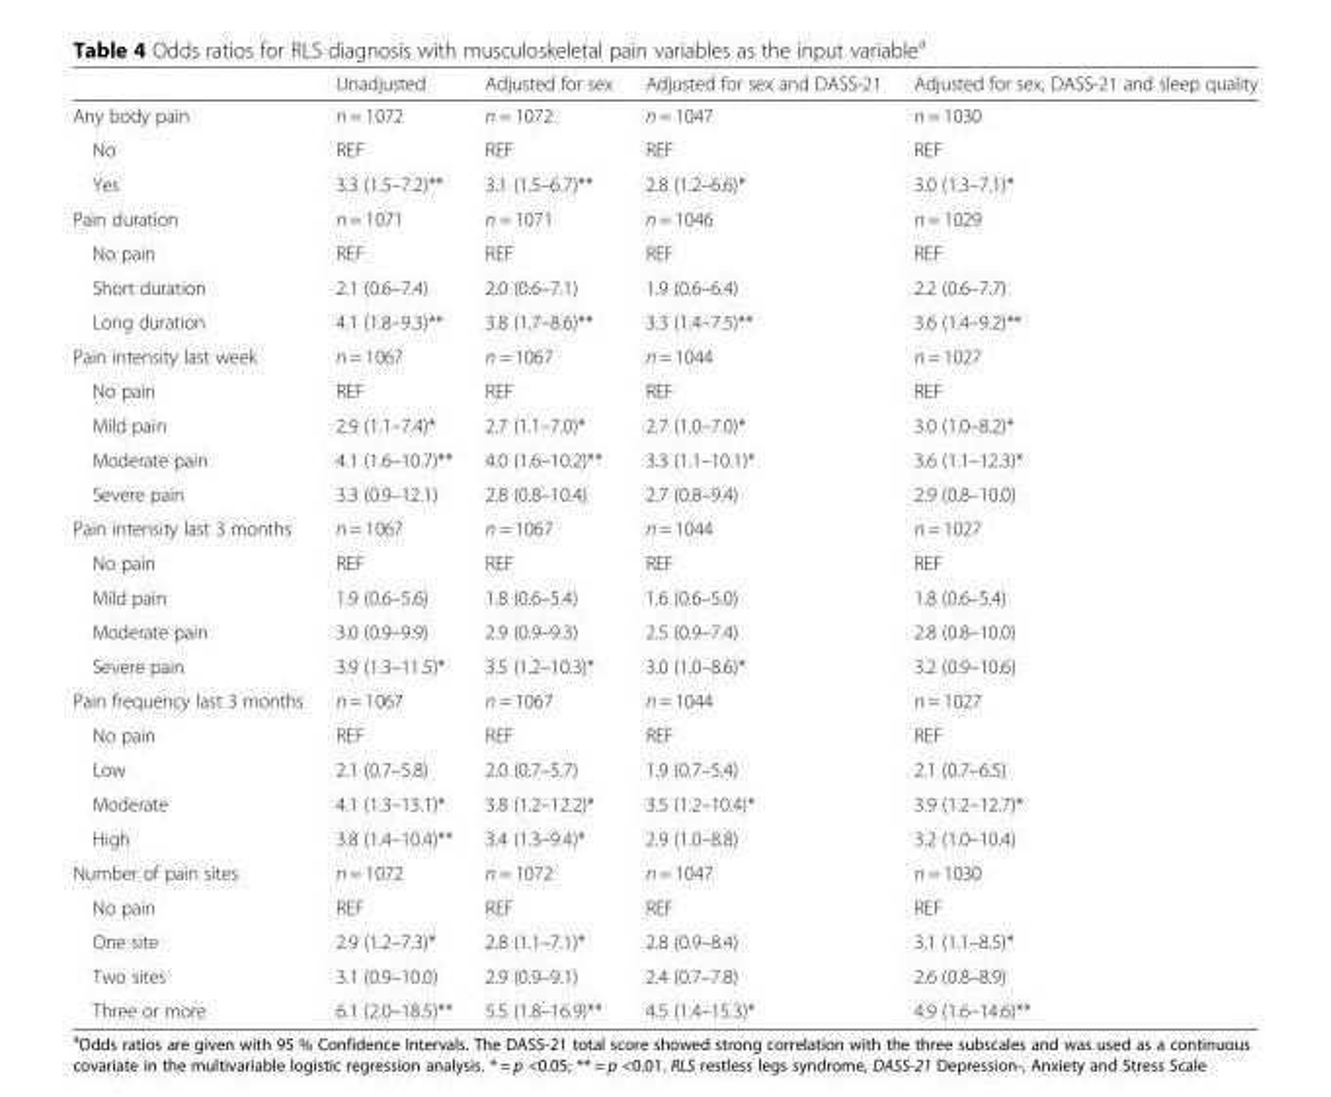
<table><thead><tr><td></td><td>Unadjusted</td><td>Adjusted for sex</td><td>Adjusted for sex and DASS-21</td><td>Adjusted for sex, DASS-21 and sleep quality</td></tr></thead><tbody><tr><td>Any body pain</td><td>n = 1072</td><td>n = 1072</td><td>n = 1047</td><td>n = 1030</td></tr><tr><td>No</td><td>REF</td><td>REF</td><td>REF</td><td>REF</td></tr><tr><td>Yes</td><td>3.3 (1.5–7.2)**</td><td>3.1 (1.5–6.7)**</td><td>2.8 (1.2–6.6)*</td><td>3.0 (1.3–7.1)*</td></tr><tr><td>Pain duration</td><td>n = 1071</td><td>n = 1071</td><td>n = 1046</td><td>n = 1029</td></tr><tr><td>No pain</td><td>REF</td><td>REF</td><td>REF</td><td>REF</td></tr><tr><td>Short duration</td><td>2.1 (0.6–7.4)</td><td>2.0 (0.6–7.1)</td><td>1.9 (0.6–6.4)</td><td>2.2 (0.6–7.7)</td></tr><tr><td>Long duration</td><td>4.1 (1.8–9.3)**</td><td>3.8 (1.7–8.6)**</td><td>3.3 (1.4–7.5)**</td><td>3.6 (1.4–9.2)**</td></tr><tr><td>Pain intensity last week</td><td>n = 1067</td><td>n = 1067</td><td>n = 1044</td><td>n = 1027</td></tr><tr><td>No pain</td><td>REF</td><td>REF</td><td>REF</td><td>REF</td></tr><tr><td>Mild pain</td><td>2.9 (1.1–7.4)*</td><td>2.7 (1.1–7.0)*</td><td>2.7 (1.0–7.0)*</td><td>3.0 (1.0–8.2)*</td></tr><tr><td>Moderate pain</td><td>4.1 (1.6–10.7)**</td><td>4.0 (1.6–10.2)**</td><td>3.3 (1.1–10.1)*</td><td>3.6 (1.1–12.3)*</td></tr><tr><td>Severe pain</td><td>3.3 (0.9–12.1)</td><td>2.8 (0.8–10.4)</td><td>2.7 (0.8–9.4)</td><td>2.9 (0.8–10.0)</td></tr><tr><td>Pain intensity last 3 months</td><td>n = 1067</td><td>n = 1067</td><td>n = 1044</td><td>n = 1027</td></tr><tr><td>No pain</td><td>REF</td><td>REF</td><td>REF</td><td>REF</td></tr><tr><td>Mild pain</td><td>1.9 (0.6–5.6)</td><td>1.8 (0.6–5.4)</td><td>1.6 (0.6–5.0)</td><td>1.8 (0.6–5.4)</td></tr><tr><td>Moderate pain</td><td>3.0 (0.9–9.9)</td><td>2.9 (0.9–9.3)</td><td>2.5 (0.9–7.4)</td><td>2.8 (0.8–10.0)</td></tr><tr><td>Severe pain</td><td>3.9 (1.3–11.5)*</td><td>3.5 (1.2–10.3)*</td><td>3.0 (1.0–8.6)*</td><td>3.2 (0.9–10.6)</td></tr><tr><td>Pain frequency last 3 months</td><td>n = 1067</td><td>n = 1067</td><td>n = 1044</td><td>n = 1027</td></tr><tr><td>No pain</td><td>REF</td><td>REF</td><td>REF</td><td>REF</td></tr><tr><td>Low</td><td>2.1 (0.7–5.8)</td><td>2.0 (0.7–5.7)</td><td>1.9 (0.7–5.4)</td><td>2.1 (0.7–6.5)</td></tr><tr><td>Moderate</td><td>4.1 (1.3–13.1)*</td><td>3.8 (1.2–12.2)*</td><td>3.5 (1.2–10.4)*</td><td>3.9 (1.2–12.7)*</td></tr><tr><td>High</td><td>3.8 (1.4–10.4)**</td><td>3.4 (1.3–9.4)*</td><td>2.9 (1.0–8.8)</td><td>3.2 (1.0–10.4)</td></tr><tr><td>Number of pain sites</td><td>n = 1072</td><td>n = 1072</td><td>n = 1047</td><td>n = 1030</td></tr><tr><td>No pain</td><td>REF</td><td>REF</td><td>REF</td><td>REF</td></tr><tr><td>One site</td><td>2.9 (1.2–7.3)*</td><td>2.8 (1.1–7.1)*</td><td>2.8 (0.9–8.4)</td><td>3.1 (1.1–8.5)*</td></tr><tr><td>Two sites</td><td>3.1 (0.9–10.0)</td><td>2.9 (0.9–9.1)</td><td>2.4 (0.7–7.8)</td><td>2.6 (0.8–8.9)</td></tr><tr><td>Three or more</td><td>6.1 (2.0–18.5)**</td><td>5.5 (1.8–16.9)**</td><td>4.5 (1.4–15.3)*</td><td>4.9 (1.6–14.6)**</td></tr></tbody></table>